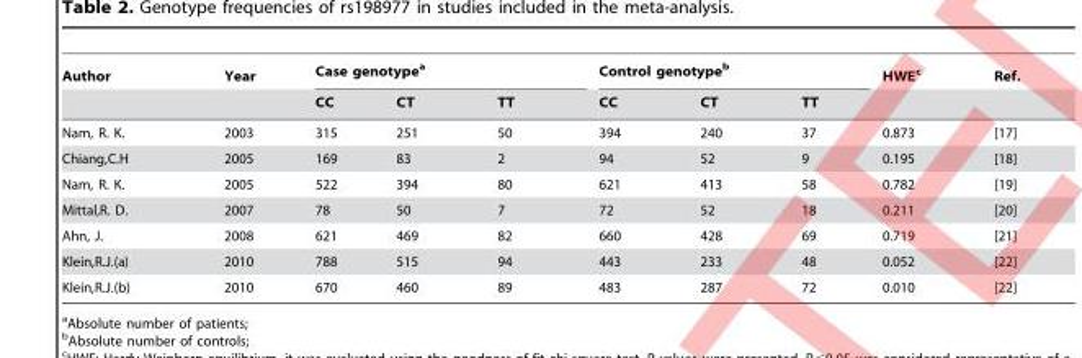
<table><thead><tr><td rowspan="2">Author</td><td rowspan="2">Year</td><td colspan="3">Case genotypea</td><td colspan="3">Control genotypeb</td><td rowspan="2">HWEc</td><td rowspan="2">Ref.</td></tr><tr><td>CC</td><td>CT</td><td>TT</td><td>CC</td><td>CT</td><td>TT</td></tr></thead><tbody><tr><td>Nam, R. K.</td><td>2003</td><td>315</td><td>251</td><td>50</td><td>394</td><td>240</td><td>37</td><td>0.873</td><td>[17]</td></tr><tr><td>Chiang,C.H</td><td>2005</td><td>169</td><td>83</td><td>2</td><td>94</td><td>52</td><td>9</td><td>0.195</td><td>[18]</td></tr><tr><td>Nam, R. K.</td><td>2005</td><td>522</td><td>394</td><td>80</td><td>621</td><td>413</td><td>58</td><td>0.782</td><td>[19]</td></tr><tr><td>Mittal,R. D.</td><td>2007</td><td>78</td><td>50</td><td>7</td><td>72</td><td>52</td><td>18</td><td>0.211</td><td>[20]</td></tr><tr><td>Ahn, J.</td><td>2008</td><td>621</td><td>469</td><td>82</td><td>660</td><td>428</td><td>69</td><td>0.719</td><td>[21]</td></tr><tr><td>Klein,R.J.(a)</td><td>2010</td><td>788</td><td>515</td><td>94</td><td>443</td><td>233</td><td>48</td><td>0.052</td><td>[22]</td></tr><tr><td>Klein,R.J.(b)</td><td>2010</td><td>670</td><td>460</td><td>89</td><td>483</td><td>287</td><td>72</td><td>0.010</td><td>[22]</td></tr></tbody></table>